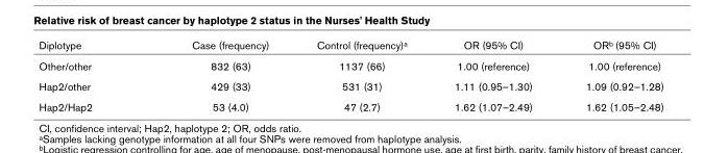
<table><thead><tr><td>Diplotype</td><td>Case (frequency)</td><td>Control (frequency)a</td><td>OR (95% CI)</td><td>ORb (95% CI)</td></tr></thead><tbody><tr><td>Other/other</td><td>832 (63)</td><td>1137 (66)</td><td>1.00 (reference)</td><td>1.00 (reference)</td></tr><tr><td>Hap2/other</td><td>429 (33)</td><td>531 (31)</td><td>1.11 (0.95–1.30)</td><td>1.09 (0.92–1.28)</td></tr><tr><td>Hap2/Hap2</td><td>53 (4.0)</td><td>47 (2.7)</td><td>1.62 (1.07–2.49)</td><td>1.62 (1.05–2.48)</td></tr></tbody></table>